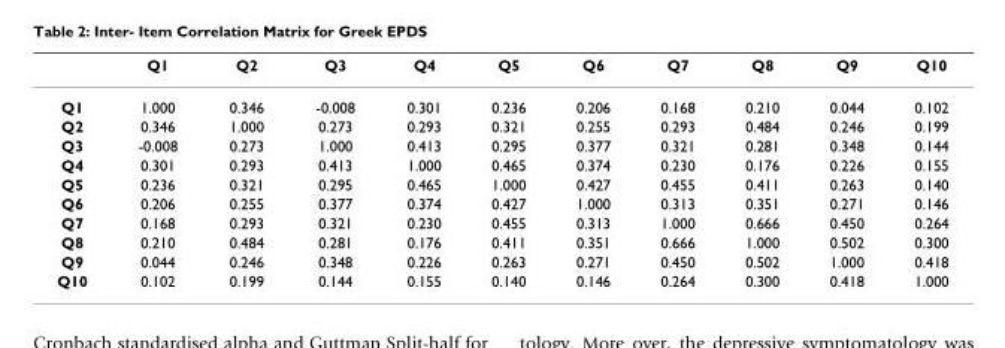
<table><thead><tr><td></td><td>Q1</td><td>Q2</td><td>Q3</td><td>Q4</td><td>Q5</td><td>Q6</td><td>Q7</td><td>Q8</td><td>Q9</td><td>Q10</td></tr></thead><tbody><tr><td>Q1</td><td>1.000</td><td>0.346</td><td>-0.008</td><td>0.301</td><td>0.236</td><td>0.206</td><td>0.168</td><td>0.210</td><td>0.044</td><td>0.102</td></tr><tr><td>Q2</td><td>0.346</td><td>1.000</td><td>0.273</td><td>0.293</td><td>0.321</td><td>0.255</td><td>0.293</td><td>0.484</td><td>0.246</td><td>0.199</td></tr><tr><td>Q3</td><td>-0.008</td><td>0.273</td><td>1.000</td><td>0.413</td><td>0.295</td><td>0.377</td><td>0.321</td><td>0.281</td><td>0.348</td><td>0.144</td></tr><tr><td>Q4</td><td>0.301</td><td>0.293</td><td>0.413</td><td>1.000</td><td>0.465</td><td>0.374</td><td>0.230</td><td>0.176</td><td>0.226</td><td>0.155</td></tr><tr><td>Q5</td><td>0.236</td><td>0.321</td><td>0.295</td><td>0.465</td><td>1.000</td><td>0.427</td><td>0.455</td><td>0.411</td><td>0.263</td><td>0.140</td></tr><tr><td>Q6</td><td>0.206</td><td>0.255</td><td>0.377</td><td>0.374</td><td>0.427</td><td>1.000</td><td>0.313</td><td>0.351</td><td>0.271</td><td>0.146</td></tr><tr><td>Q7</td><td>0.168</td><td>0.293</td><td>0.321</td><td>0.230</td><td>0.455</td><td>0.313</td><td>1.000</td><td>0.666</td><td>0.450</td><td>0.264</td></tr><tr><td>Q8</td><td>0.210</td><td>0.484</td><td>0.281</td><td>0.176</td><td>0.411</td><td>0.351</td><td>0.666</td><td>1.000</td><td>0.502</td><td>0.300</td></tr><tr><td>Q9</td><td>0.044</td><td>0.246</td><td>0.348</td><td>0.226</td><td>0.263</td><td>0.271</td><td>0.450</td><td>0.502</td><td>1.000</td><td>0.418</td></tr><tr><td>Q10</td><td>0.102</td><td>0.199</td><td>0.144</td><td>0.155</td><td>0.140</td><td>0.146</td><td>0.264</td><td>0.300</td><td>0.418</td><td>1.000</td></tr></tbody></table>